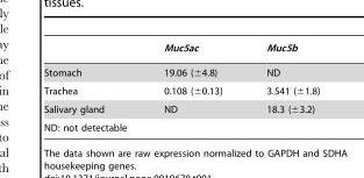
<table><thead><tr><td></td><td>Muc5ac</td><td>Muc5b</td></tr></thead><tbody><tr><td>Stomach</td><td>19.06 (±4.8)</td><td>ND</td></tr><tr><td>Trachea</td><td>0.108 (±0.13)</td><td>3.541 (±1.8)</td></tr><tr><td>Salivary gland</td><td>ND</td><td>18.3 (±3.2)</td></tr><tr><td>ND: not detectable</td><td></td><td></td></tr></tbody></table>